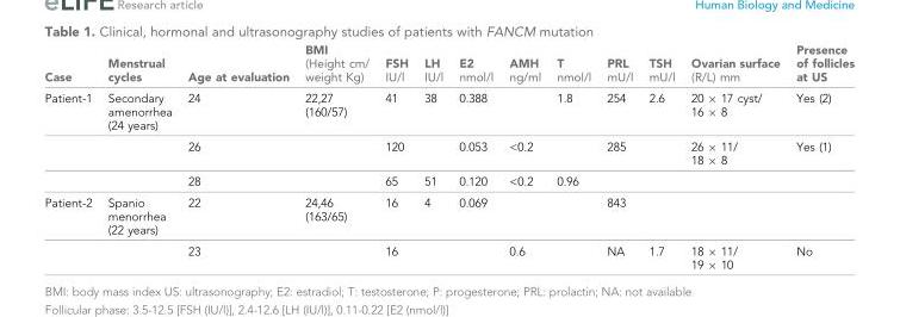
<table><thead><tr><td>Case</td><td>Menstrual cycles</td><td>Age at evaluation</td><td>BMI (Height cm/ weight Kg)</td><td>FSH IU/l</td><td>LH IU/l</td><td>E2 nmol/l</td><td>AMH ng/ml</td><td>T nmol/l</td><td>PRL mU/l</td><td>TSH mU/l</td><td>Ovarian surface (R/L) mm</td><td>Presence of follicles at US</td></tr></thead><tbody><tr><td rowspan="3">Patient-1</td><td>Secondary amenorrhea (24 years)</td><td>24</td><td>22,27 (160/57)</td><td>41</td><td>38</td><td>0.388</td><td></td><td>1.8</td><td>254</td><td>2.6</td><td>20 × 17 cyst/ 16 × 8</td><td>Yes (2)</td></tr><tr><td></td><td>26</td><td></td><td>120</td><td></td><td>0.053</td><td>&lt;0.2</td><td></td><td>285</td><td></td><td>26 × 11/ 18 × 8</td><td>Yes (1)</td></tr><tr><td></td><td>28</td><td></td><td>65</td><td>51</td><td>0.120</td><td>&lt;0.2</td><td>0.96</td><td></td><td></td><td></td><td></td></tr><tr><td rowspan="2">Patient-2</td><td>Spanio menorrhea (22 years)</td><td>22</td><td>24,46 (163/65)</td><td>16</td><td>4</td><td>0.069</td><td></td><td></td><td>843</td><td></td><td></td><td></td></tr><tr><td></td><td>23</td><td></td><td>16</td><td></td><td></td><td>0.6</td><td></td><td>NA</td><td>1.7</td><td>18 × 11/ 19 × 10</td><td>No</td></tr></tbody></table>